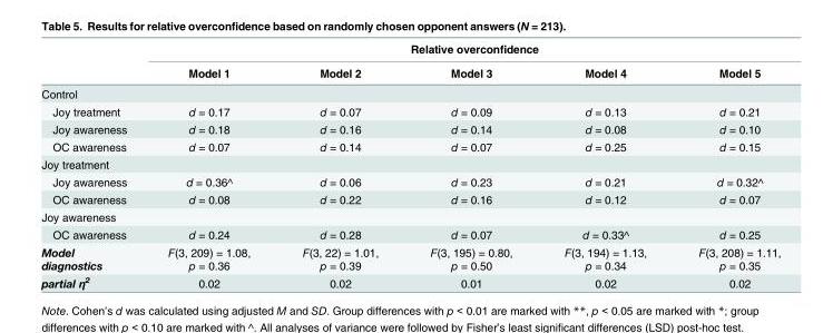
<table><thead><tr><td rowspan="2"></td><td colspan="5">Relative overconfidence</td></tr><tr><td>Model 1</td><td>Model 2</td><td>Model 3</td><td>Model 4</td><td>Model 5</td></tr></thead><tbody><tr><td colspan="6">Control</td></tr><tr><td>Joy treatment</td><td>d = 0.17</td><td>d = 0.07</td><td>d = 0.09</td><td>d = 0.13</td><td>d = 0.21</td></tr><tr><td>Joy awareness</td><td>d = 0.18</td><td>d = 0.16</td><td>d = 0.14</td><td>d = 0.08</td><td>d = 0.10</td></tr><tr><td>OC awareness</td><td>d = 0.07</td><td>d = 0.14</td><td>d = 0.07</td><td>d = 0.25</td><td>d = 0.15</td></tr><tr><td colspan="6">Joy treatment</td></tr><tr><td>Joy awareness</td><td>d = 0.36^</td><td>d = 0.06</td><td>d = 0.23</td><td>d = 0.21</td><td>d = 0.32^</td></tr><tr><td>OC awareness</td><td>d = 0.08</td><td>d = 0.22</td><td>d = 0.16</td><td>d = 0.12</td><td>d = 0.07</td></tr><tr><td colspan="6">Joy awareness</td></tr><tr><td>OC awareness</td><td>d = 0.24</td><td>d = 0.28</td><td>d = 0.07</td><td>d = 0.33^</td><td>d = 0.25</td></tr><tr><td>Model diagnostics</td><td>F(3, 209) = 1.08, p = 0.36</td><td>F(3, 22) = 1.01, p = 0.39</td><td>F(3, 195) = 0.80, p = 0.50</td><td>F(3, 194) = 1.13, p = 0.34</td><td>F(3, 208) = 1.11, p = 0.35</td></tr><tr><td>partial η<sup>2</sup></td><td>0.02</td><td>0.02</td><td>0.01</td><td>0.02</td><td>0.02</td></tr></tbody></table>